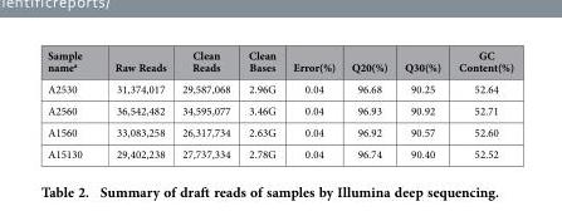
<table><thead><tr><td>Sample name<sup>a</sup></td><td>Raw Reads</td><td>Clean Reads</td><td>Clean Bases</td><td>Error(%)</td><td>Q20(%)</td><td>Q30(%)</td><td>GC Content(%)</td></tr></thead><tbody><tr><td>A2530</td><td>31,374,017</td><td>29,587,068</td><td>2.96G</td><td>0.04</td><td>96.68</td><td>90.25</td><td>52.64</td></tr><tr><td>A2560</td><td>36,542,482</td><td>34,595,077</td><td>3.46G</td><td>0.04</td><td>96.93</td><td>90.92</td><td>52.71</td></tr><tr><td>A1560</td><td>33,083,258</td><td>26,317,734</td><td>2.63G</td><td>0.04</td><td>96.92</td><td>90.57</td><td>52.60</td></tr><tr><td>A15130</td><td>29,402,238</td><td>27,737,334</td><td>2.78G</td><td>0.04</td><td>96.74</td><td>90.40</td><td>52.52</td></tr></tbody></table>